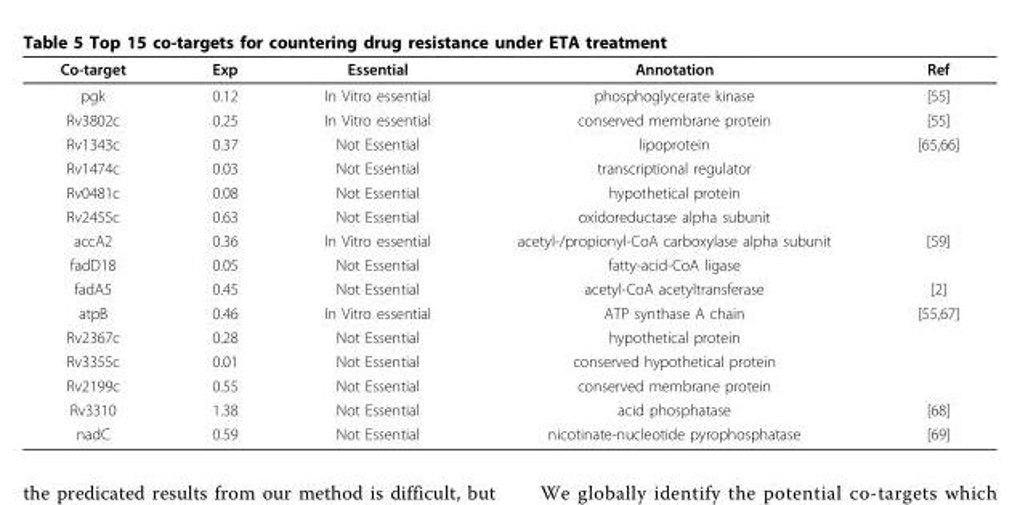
<table><thead><tr><td>Co-target</td><td>Exp</td><td>Essential</td><td>Annotation</td><td>Ref</td></tr></thead><tbody><tr><td>pgk</td><td>0.12</td><td>In Vitro essential</td><td>phosphoglycerate kinase</td><td>[55]</td></tr><tr><td>Rv3802c</td><td>0.25</td><td>In Vitro essential</td><td>conserved membrane protein</td><td>[55]</td></tr><tr><td>Rv1343c</td><td>0.37</td><td>Not Essential</td><td>lipoprotein</td><td>[65,66]</td></tr><tr><td>Rv1474c</td><td>0.03</td><td>Not Essential</td><td>transcriptional regulator</td><td></td></tr><tr><td>Rv0481c</td><td>0.08</td><td>Not Essential</td><td>hypothetical protein</td><td></td></tr><tr><td>Rv2455c</td><td>0.63</td><td>Not Essential</td><td>oxidoreductase alpha subunit</td><td></td></tr><tr><td>accA2</td><td>0.36</td><td>In Vitro essential</td><td>acetyl-/propionyl-CoA carboxylase alpha subunit</td><td>[59]</td></tr><tr><td>fadD18</td><td>0.05</td><td>Not Essential</td><td>fatty-acid-CoA ligase</td><td></td></tr><tr><td>fadA5</td><td>0.45</td><td>Not Essential</td><td>acetyl-CoA acetyltransferase</td><td>[2]</td></tr><tr><td>atpB</td><td>0.46</td><td>In Vitro essential</td><td>ATP synthase A chain</td><td>[55,67]</td></tr><tr><td>Rv2367c</td><td>0.28</td><td>Not Essential</td><td>hypothetical protein</td><td></td></tr><tr><td>Rv3355c</td><td>0.01</td><td>Not Essential</td><td>conserved hypothetical protein</td><td></td></tr><tr><td>Rv2199c</td><td>0.55</td><td>Not Essential</td><td>conserved membrane protein</td><td></td></tr><tr><td>Rv3310</td><td>1.38</td><td>Not Essential</td><td>acid phosphatase</td><td>[68]</td></tr><tr><td>nadC</td><td>0.59</td><td>Not Essential</td><td>nicotinate-nucleotide pyrophosphatase</td><td>[69]</td></tr></tbody></table>